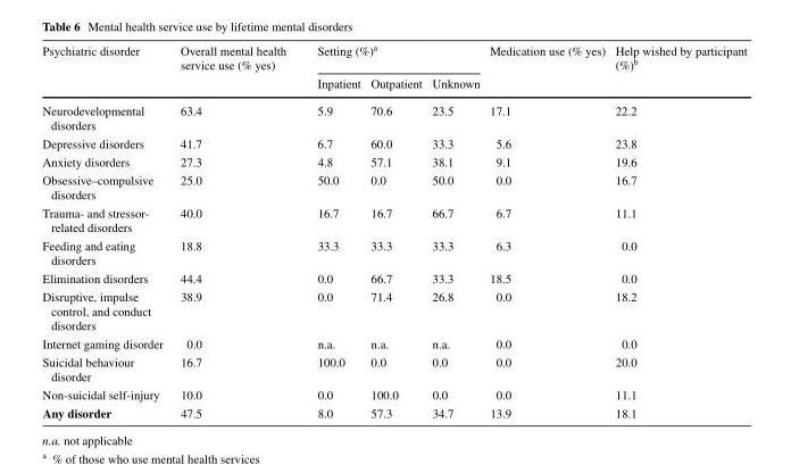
<table><thead><tr><td rowspan="2">Psychiatric disorder</td><td rowspan="2">Overall mental health service use (% yes)</td><td colspan="3">Setting (%)<sup>a</sup></td><td rowspan="2">Medication use (% yes)</td><td rowspan="2">Help wished by participant (%)<sup>b</sup></td></tr><tr><td>Inpatient</td><td>Outpatient</td><td>Unknown</td></tr></thead><tbody><tr><td>Neurodevelopmental disorders</td><td>63.4</td><td>5.9</td><td>70.6</td><td>23.5</td><td>17.1</td><td>22.2</td></tr><tr><td>Depressive disorders</td><td>41.7</td><td>6.7</td><td>60.0</td><td>33.3</td><td>5.6</td><td>23.8</td></tr><tr><td>Anxiety disorders</td><td>27.3</td><td>4.8</td><td>57.1</td><td>38.1</td><td>9.1</td><td>19.6</td></tr><tr><td>Obsessive–compulsive disorders</td><td>25.0</td><td>50.0</td><td>0.0</td><td>50.0</td><td>0.0</td><td>16.7</td></tr><tr><td>Trauma- and stressor- related disorders</td><td>40.0</td><td>16.7</td><td>16.7</td><td>66.7</td><td>6.7</td><td>11.1</td></tr><tr><td>Feeding and eating disorders</td><td>18.8</td><td>33.3</td><td>33.3</td><td>33.3</td><td>6.3</td><td>0.0</td></tr><tr><td>Elimination disorders</td><td>44.4</td><td>0.0</td><td>66.7</td><td>33.3</td><td>18.5</td><td>0.0</td></tr><tr><td>Disruptive, impulse control, and conduct disorders</td><td>38.9</td><td>0.0</td><td>71.4</td><td>26.8</td><td>0.0</td><td>18.2</td></tr><tr><td>Internet gaming disorder</td><td>0.0</td><td>n.a.</td><td>n.a.</td><td>n.a.</td><td>0.0</td><td>0.0</td></tr><tr><td>Suicidal behaviour disorder</td><td>16.7</td><td>100.0</td><td>0.0</td><td>0.0</td><td>0.0</td><td>20.0</td></tr><tr><td>Non-suicidal self-injury</td><td>10.0</td><td>0.0</td><td>100.0</td><td>0.0</td><td>0.0</td><td>11.1</td></tr><tr><td>Any disorder</td><td>47.5</td><td>8.0</td><td>57.3</td><td>34.7</td><td>13.9</td><td>18.1</td></tr></tbody></table>